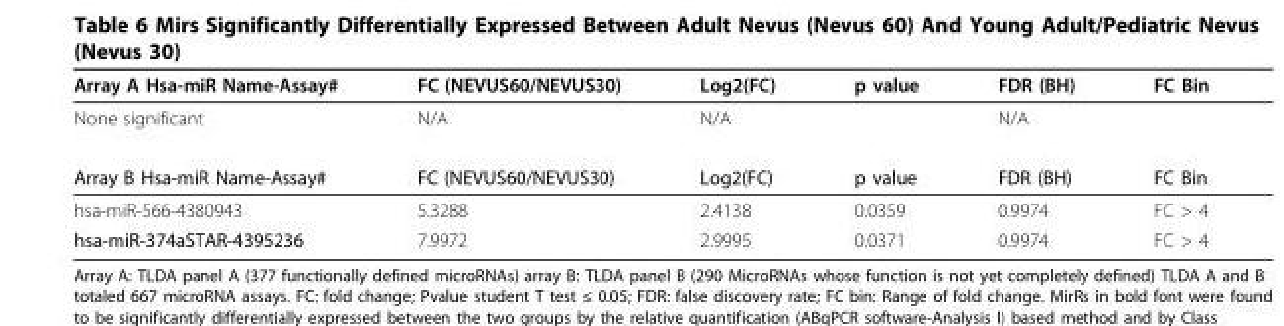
<table><thead><tr><td>Array A Hsa-miR Name-Assay#</td><td>FC (NEVUS60/NEVUS30)</td><td>Log2(FC)</td><td>p value</td><td>FDR (BH)</td><td>FC Bin</td></tr></thead><tbody><tr><td>None significant</td><td>N/A</td><td>N/A</td><td></td><td>N/A</td><td></td></tr><tr><td>Array B Hsa-miR Name-Assay#</td><td>FC (NEVUS60/NEVUS30)</td><td>Log2(FC)</td><td>p value</td><td>FDR (BH)</td><td>FC Bin</td></tr><tr><td>hsa-miR-566-4380943</td><td>5.3288</td><td>2.4138</td><td>0.0359</td><td>0.9974</td><td>FC &gt; 4</td></tr><tr><td>hsa-miR-374aSTAR-4395236</td><td>7.9972</td><td>2.9995</td><td>0.0371</td><td>0.9974</td><td>FC &gt; 4</td></tr></tbody></table>